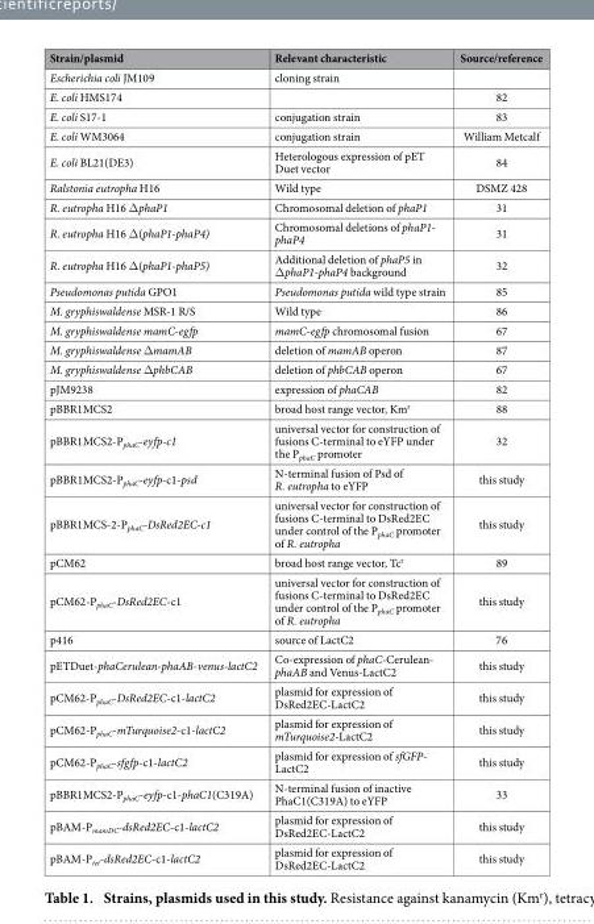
<table><thead><tr><td>Strain/plasmid</td><td>Relevant characteristic</td><td>Source/reference</td></tr></thead><tbody><tr><td>Escherichia coli JM109</td><td>cloning strain</td><td></td></tr><tr><td>E. coli HMS174</td><td></td><td>82</td></tr><tr><td>E. coli S17-1</td><td>conjugation strain</td><td>83</td></tr><tr><td>E. coli WM3064</td><td>conjugation strain</td><td>William Metcalf</td></tr><tr><td>E. coli BL21(DE3)</td><td>Heterologous expression of pET Duet vector</td><td>84</td></tr><tr><td>Ralstonia eutropha H16</td><td>Wild type</td><td>DSMZ 428</td></tr><tr><td>R. eutropha H16 Δ phaP1</td><td>Chromosomal deletion of phaP1</td><td>31</td></tr><tr><td>R. eutropha H16 Δ (phaP1-phaP4)</td><td>Chromosomal deletions of phaP1- phaP4</td><td>31</td></tr><tr><td>R. eutropha H16 Δ (phaP1-phaP5)</td><td>Additional deletion of phaP5 in ΔphaP1-phaP4 background</td><td>32</td></tr><tr><td>Pseudomonas putida GPO1</td><td>Pseudomonas putida wild type strain</td><td>85</td></tr><tr><td>M. gryphiswaldense MSR-1 R/S</td><td>Wild type</td><td>86</td></tr><tr><td>M. gryphiswaldense mamC-egfp</td><td>mamC-egfp chromosomal fusion</td><td>67</td></tr><tr><td>M. gryphiswaldense Δ mamAB</td><td>deletion of mamAB operon</td><td>87</td></tr><tr><td>M. gryphiswaldense Δ phbCAB</td><td>deletion of phbCAB operon</td><td>67</td></tr><tr><td>pJM9238</td><td>expression of phaCAB</td><td>82</td></tr><tr><td>pBBR1MCS2</td><td>broad host range vector, Km<sup>r</sup></td><td>88</td></tr><tr><td>pBBR1MCS2-P<sub>phaC</sub>-eyfp-c1</td><td>universal vector for construction of fusions C-terminal to eYFP under the P<sub>phaC</sub> promoter</td><td>32</td></tr><tr><td>pBBR1MCS2-P<sub>phaC</sub>-eyfp-c1-psd</td><td>N-terminal fusion of Psd of R. eutropha to eYFP</td><td>this study</td></tr><tr><td>pBBR1MCS-2-P<sub>phaC</sub>-DsRed2EC-c1</td><td>universal vector for construction of fusions C-terminal to DsRed2EC under control of the P<sub>phaC</sub> promoter of R. eutropha</td><td>this study</td></tr><tr><td>pCM62</td><td>broad host range vector, Tc<sup>r</sup></td><td>89</td></tr><tr><td>pCM62-P<sub>phaC</sub>-DsRed2EC-c1</td><td>universal vector for construction of fusions C-terminal to DsRed2EC under control of the P<sub>phaC</sub> promoter of R. eutropha</td><td>this study</td></tr><tr><td>p416</td><td>source of LactC2</td><td>76</td></tr><tr><td>pETDuet-phaCerulean-phaAB-venus-lactC2</td><td>Co-expression of phaC-Cerulean- phaAB and Venus-LactC2</td><td>this study</td></tr><tr><td>pCM62-P<sub>phaC</sub>-DsRed2EC-c1-lactC2</td><td>plasmid for expression of DsRed2EC-LactC2</td><td>this study</td></tr><tr><td>pCM62-P<sub>phaC</sub>-mTurquoise2-c1-lactC2</td><td>plasmid for expression of mTurquoise2-LactC2</td><td>this study</td></tr><tr><td>pCM62-P<sub>phaC</sub>-sfgfp-c1-lactC2</td><td>plasmid for expression of sfGFP- LactC2</td><td>this study</td></tr><tr><td>pBBR1MCS2-P<sub>phaC</sub>-eyfp-c1-phaC1(C319A)</td><td>N-terminal fusion of inactive PhaC1(C319A) to eYFP</td><td>33</td></tr><tr><td>pBAM-P<sub>mamDC</sub>-dsRed2EC-c1-lactC2</td><td>plasmid for expression of DsRed2EC-LactC2</td><td>this study</td></tr><tr><td>pBAM-P<sub>tet</sub>-dsRed2EC-c1-lactC2</td><td>plasmid for expression of DsRed2EC-LactC2</td><td>this study</td></tr></tbody></table>